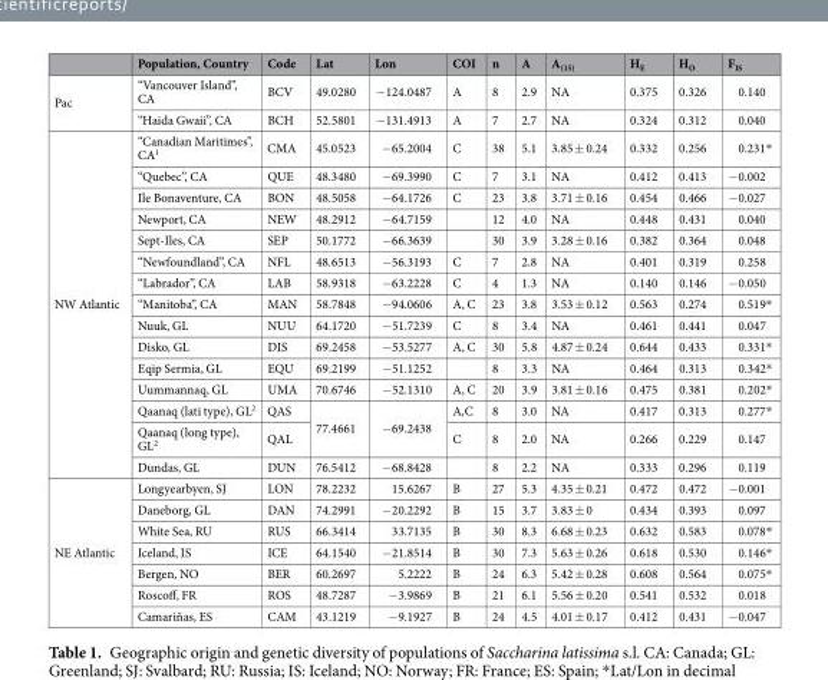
<table><thead><tr><td></td><td>Population, Country</td><td>Code</td><td>Lat</td><td>Lon</td><td>COI</td><td>n</td><td>A</td><td>A<sub>(15)</sub></td><td>H<sub>E</sub></td><td>H<sub>O</sub></td><td>F<sub>IS</sub></td></tr></thead><tbody><tr><td rowspan="2">Pac</td><td>“Vancouver Island”, CA</td><td>BCV</td><td>49.0280</td><td>−124.0487</td><td>A</td><td>8</td><td>2.9</td><td>NA</td><td>0.375</td><td>0.326</td><td>0.140</td></tr><tr><td>“Haida Gwaii”, CA</td><td>BCH</td><td>52.5801</td><td>−131.4913</td><td>A</td><td>7</td><td>2.7</td><td>NA</td><td>0.324</td><td>0.312</td><td>0.040</td></tr><tr><td rowspan="15">NW Atlantic</td><td>“Canadian Maritimes”, CA<sup>1</sup></td><td>CMA</td><td>45.0523</td><td>−65.2004</td><td>C</td><td>38</td><td>5.1</td><td>3.85 ± 0.24</td><td>0.332</td><td>0.256</td><td>0.231*</td></tr><tr><td>“Quebec”, CA</td><td>QUE</td><td>48.3480</td><td>−69.3990</td><td>C</td><td>7</td><td>3.1</td><td>NA</td><td>0.412</td><td>0.413</td><td>−0.002</td></tr><tr><td>Ile Bonaventure, CA</td><td>BON</td><td>48.5058</td><td>−64.1726</td><td>C</td><td>23</td><td>3.8</td><td>3.71 ± 0.16</td><td>0.454</td><td>0.466</td><td>−0.027</td></tr><tr><td>Newport, CA</td><td>NEW</td><td>48.2912</td><td>−64.7159</td><td></td><td>12</td><td>4.0</td><td>NA</td><td>0.448</td><td>0.431</td><td>0.040</td></tr><tr><td>Sept-Iles, CA</td><td>SEP</td><td>50.1772</td><td>−66.3639</td><td></td><td>30</td><td>3.9</td><td>3.28 ± 0.16</td><td>0.382</td><td>0.364</td><td>0.048</td></tr><tr><td>“Newfoundland”, CA</td><td>NFL</td><td>48.6513</td><td>−56.3193</td><td>C</td><td>7</td><td>2.8</td><td>NA</td><td>0.401</td><td>0.319</td><td>0.258</td></tr><tr><td>“Labrador”, CA</td><td>LAB</td><td>58.9318</td><td>−63.2228</td><td>C</td><td>4</td><td>1.3</td><td>NA</td><td>0.140</td><td>0.146</td><td>−0.050</td></tr><tr><td>“Manitoba”, CA</td><td>MAN</td><td>58.7848</td><td>−94.0606</td><td>A, C</td><td>23</td><td>3.8</td><td>3.53 ± 0.12</td><td>0.563</td><td>0.274</td><td>0.519*</td></tr><tr><td>Nuuk, GL</td><td>NUU</td><td>64.1720</td><td>−51.7239</td><td>C</td><td>8</td><td>3.4</td><td>NA</td><td>0.461</td><td>0.441</td><td>0.047</td></tr><tr><td>Disko, GL</td><td>DIS</td><td>69.2458</td><td>−53.5277</td><td>A, C</td><td>30</td><td>5.8</td><td>4.87 ± 0.24</td><td>0.644</td><td>0.433</td><td>0.331*</td></tr><tr><td>Eqip Sermia, GL</td><td>EQU</td><td>69.2199</td><td>−51.1252</td><td></td><td>8</td><td>3.3</td><td>NA</td><td>0.464</td><td>0.313</td><td>0.342*</td></tr><tr><td>Uummannaq, GL</td><td>UMA</td><td>70.6746</td><td>−52.1310</td><td>A, C</td><td>20</td><td>3.9</td><td>3.81 ± 0.16</td><td>0.475</td><td>0.381</td><td>0.202*</td></tr><tr><td>Qaanaq (lati type), GL<sup>2</sup></td><td>QAS</td><td rowspan="2">77.4661</td><td rowspan="2">−69.2438</td><td>A,C</td><td>8</td><td>3.0</td><td>NA</td><td>0.417</td><td>0.313</td><td>0.277*</td></tr><tr><td>Qaanaq (long type), GL<sup>2</sup></td><td>QAL</td><td>C</td><td>8</td><td>2.0</td><td>NA</td><td>0.266</td><td>0.229</td><td>0.147</td></tr><tr><td>Dundas, GL</td><td>DUN</td><td>76.5412</td><td>−68.8428</td><td></td><td>8</td><td>2.2</td><td>NA</td><td>0.333</td><td>0.296</td><td>0.119</td></tr><tr><td rowspan="7">NE Atlantic</td><td>Longyearbyen, SJ</td><td>LON</td><td>78.2232</td><td>15.6267</td><td>B</td><td>27</td><td>5.3</td><td>4.35 ± 0.21</td><td>0.472</td><td>0.472</td><td>−0.001</td></tr><tr><td>Daneborg, GL</td><td>DAN</td><td>74.2991</td><td>−20.2292</td><td>B</td><td>15</td><td>3.7</td><td>3.83 ± 0</td><td>0.434</td><td>0.393</td><td>0.097</td></tr><tr><td>White Sea, RU</td><td>RUS</td><td>66.3414</td><td>33.7135</td><td>B</td><td>30</td><td>8.3</td><td>6.68 ± 0.23</td><td>0.632</td><td>0.583</td><td>0.078*</td></tr><tr><td>Iceland, IS</td><td>ICE</td><td>64.1540</td><td>−21.8514</td><td>B</td><td>30</td><td>7.3</td><td>5.63 ± 0.26</td><td>0.618</td><td>0.530</td><td>0.146*</td></tr><tr><td>Bergen, NO</td><td>BER</td><td>60.2697</td><td>5.2222</td><td>B</td><td>24</td><td>6.3</td><td>5.42 ± 0.28</td><td>0.608</td><td>0.564</td><td>0.075*</td></tr><tr><td>Roscoff, FR</td><td>ROS</td><td>48.7287</td><td>−3.9869</td><td>B</td><td>21</td><td>6.1</td><td>5.56 ± 0.20</td><td>0.541</td><td>0.532</td><td>0.018</td></tr><tr><td>Camariñas, ES</td><td>CAM</td><td>43.1219</td><td>−9.1927</td><td>B</td><td>24</td><td>4.5</td><td>4.01 ± 0.17</td><td>0.412</td><td>0.431</td><td>−0.047</td></tr></tbody></table>